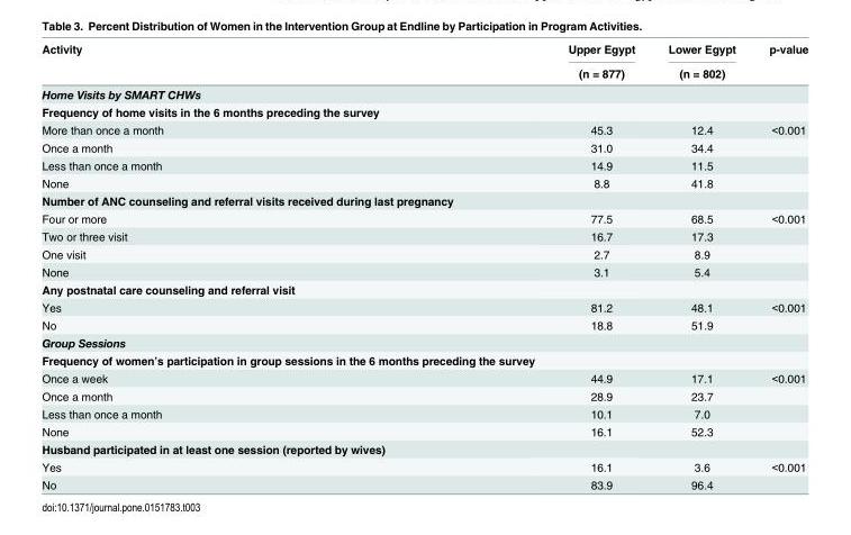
<table><thead><tr><td rowspan="2">Activity</td><td rowspan="2">Upper Egypt (n = 877)</td><td rowspan="2">Lower Egypt (n = 802)</td><td rowspan="2">p-value</td></tr><tr></tr></thead><tbody><tr><td colspan="4">Home Visits by SMART CHWs</td></tr><tr><td colspan="4">Frequency of home visits in the 6 months preceding the survey</td></tr><tr><td>More than once a month</td><td>45.3</td><td>12.4</td><td>&lt;0.001</td></tr><tr><td>Once a month</td><td>31.0</td><td>34.4</td><td></td></tr><tr><td>Less than once a month</td><td>14.9</td><td>11.5</td><td></td></tr><tr><td>None</td><td>8.8</td><td>41.8</td><td></td></tr><tr><td colspan="4">Number of ANC counseling and referral visits received during last pregnancy</td></tr><tr><td>Four or more</td><td>77.5</td><td>68.5</td><td>&lt;0.001</td></tr><tr><td>Two or three visit</td><td>16.7</td><td>17.3</td><td></td></tr><tr><td>One visit</td><td>2.7</td><td>8.9</td><td></td></tr><tr><td>None</td><td>3.1</td><td>5.4</td><td></td></tr><tr><td colspan="4">Any postnatal care counseling and referral visit</td></tr><tr><td>Yes</td><td>81.2</td><td>48.1</td><td>&lt;0.001</td></tr><tr><td>No</td><td>18.8</td><td>51.9</td><td></td></tr><tr><td colspan="4">Group Sessions</td></tr><tr><td colspan="4">Frequency of women’s participation in group sessions in the 6 months preceding the survey</td></tr><tr><td>Once a week</td><td>44.9</td><td>17.1</td><td>&lt;0.001</td></tr><tr><td>Once a month</td><td>28.9</td><td>23.7</td><td></td></tr><tr><td>Less than once a month</td><td>10.1</td><td>7.0</td><td></td></tr><tr><td>None</td><td>16.1</td><td>52.3</td><td></td></tr><tr><td colspan="4">Husband participated in at least one session (reported by wives)</td></tr><tr><td>Yes</td><td>16.1</td><td>3.6</td><td>&lt;0.001</td></tr><tr><td>No</td><td>83.9</td><td>96.4</td><td></td></tr></tbody></table>